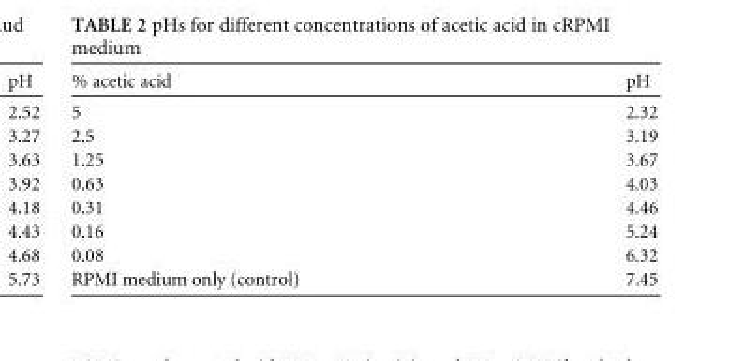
<table><thead><tr><td>% acetic acid</td><td>pH</td></tr></thead><tbody><tr><td>5</td><td>2.32</td></tr><tr><td>2.5</td><td>3.19</td></tr><tr><td>1.25</td><td>3.67</td></tr><tr><td>0.63</td><td>4.03</td></tr><tr><td>0.31</td><td>4.46</td></tr><tr><td>0.16</td><td>5.24</td></tr><tr><td>0.08</td><td>6.32</td></tr><tr><td>RPMI medium only (control)</td><td>7.45</td></tr></tbody></table>